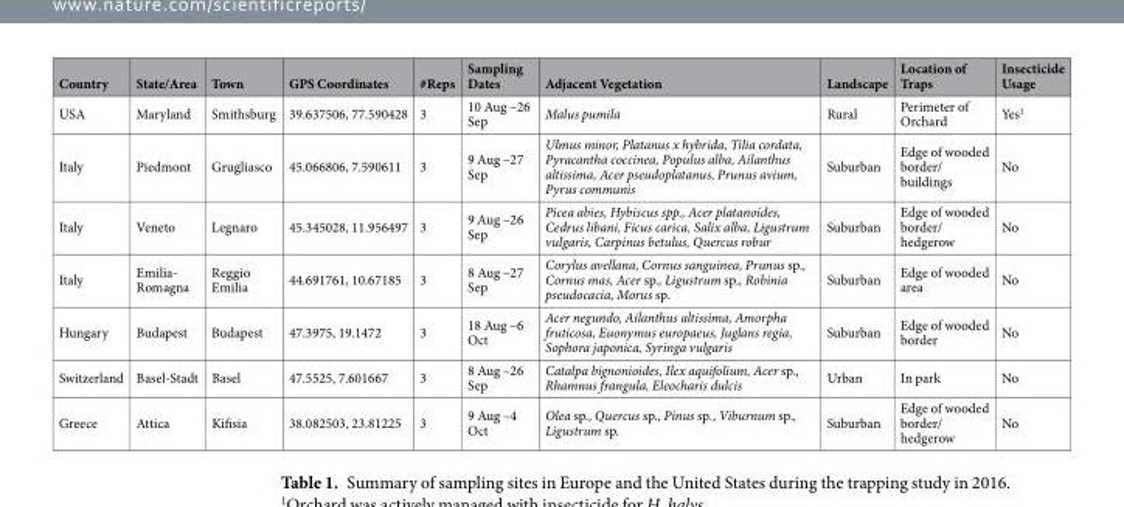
<table><thead><tr><td>Country</td><td>State/Area</td><td>Town</td><td>GPS Coordinates</td><td>#Reps</td><td>Sampling Dates</td><td>Adjacent Vegetation</td><td>Landscape</td><td>Location of Traps</td><td>Insecticide Usage</td></tr></thead><tbody><tr><td>USA</td><td>Maryland</td><td>Smithsburg</td><td>39.637506, 77.590428</td><td>3</td><td>10 Aug –26 Sep</td><td>Malus pumila</td><td>Rural</td><td>Perimeter of Orchard</td><td>Yes<sup>1</sup></td></tr><tr><td>Italy</td><td>Piedmont</td><td>Grugliasco</td><td>45.066806, 7.590611</td><td>3</td><td>9 Aug –27 Sep</td><td>Ulmus minor, Platanus x hybrida, Tilia cordata, Pyracantha coccinea, Populus alba, Ailanthus altissima, Acer pseudoplatanus, Prunus avium, Pyrus communis</td><td>Suburban</td><td>Edge of wooded border/ buildings</td><td>No</td></tr><tr><td>Italy</td><td>Veneto</td><td>Legnaro</td><td>45.345028, 11.956497</td><td>3</td><td>9 Aug –26 Sep</td><td>Picea abies, Hybiscus spp., Acer platanoides, Cedrus libani, Ficus carica, Salix alba, Ligustrum vulgaris, Carpinus betulus, Quercus robur</td><td>Suburban</td><td>Edge of wooded border/ hedgerow</td><td>No</td></tr><tr><td>Italy</td><td>Emilia- Romagna</td><td>Reggio Emilia</td><td>44.691761, 10.67185</td><td>3</td><td>8 Aug –27 Sep</td><td>Corylus avellana, Cornus sanguinea, Prunus sp., Cornus mas, Acer sp., Ligustrum sp., Robinia pseudocacia, Morus sp.</td><td>Suburban</td><td>Edge of wooded area</td><td>No</td></tr><tr><td>Hungary</td><td>Budapest</td><td>Budapest</td><td>47.3975, 19.1472</td><td>3</td><td>18 Aug –6 Oct</td><td>Acer negundo, Ailanthus altissima, Amorpha fruticosa, Euonymus europaeus, Juglans regia, Sophora japonica, Syringa vulgaris</td><td>Suburban</td><td>Edge of wooded border</td><td>No</td></tr><tr><td>Switzerland</td><td>Basel-Stadt</td><td>Basel</td><td>47.5525, 7.601667</td><td>3</td><td>8 Aug –26 Sep</td><td>Catalpa bignonioides, Ilex aquifolium, Acer sp., Rhamnus frangula, Eleocharis dulcis</td><td>Urban</td><td>In park</td><td>No</td></tr><tr><td>Greece</td><td>Attica</td><td>Kifisia</td><td>38.082503, 23.81225</td><td>3</td><td>9 Aug –4 Oct</td><td>Olea sp., Quercus sp., Pinus sp., Viburnum sp., Ligustrum sp.</td><td>Suburban</td><td>Edge of wooded border/ hedgerow</td><td>No</td></tr></tbody></table>